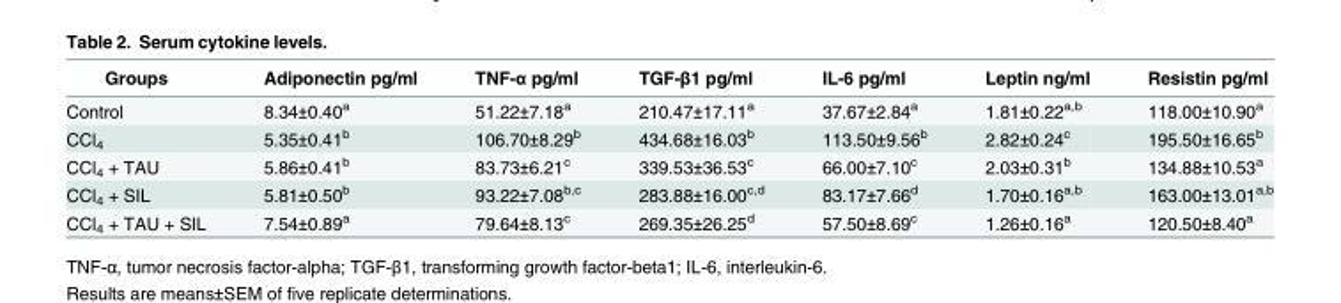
<table><thead><tr><td>Groups</td><td>Adiponectin pg/ml</td><td>TNF-α pg/ml</td><td>TGF-β1 pg/ml</td><td>IL-6 pg/ml</td><td>Leptin ng/ml</td><td>Resistin pg/ml</td></tr></thead><tbody><tr><td>Control</td><td>8.34±0.40<sup>a</sup></td><td>51.22±7.18<sup>a</sup></td><td>210.47±17.11<sup>a</sup></td><td>37.67±2.84<sup>a</sup></td><td>1.81±0.22<sup>a,b</sup></td><td>118.00±10.90<sup>a</sup></td></tr><tr><td>CCl<sub>4</sub></td><td>5.35±0.41<sup>b</sup></td><td>106.70±8.29<sup>b</sup></td><td>434.68±16.03<sup>b</sup></td><td>113.50±9.56<sup>b</sup></td><td>2.82±0.24<sup>c</sup></td><td>195.50±16.65<sup>b</sup></td></tr><tr><td>CCl<sub>4</sub> + TAU</td><td>5.86±0.41<sup>b</sup></td><td>83.73±6.21<sup>c</sup></td><td>339.53±36.53<sup>c</sup></td><td>66.00±7.10<sup>c</sup></td><td>2.03±0.31<sup>b</sup></td><td>134.88±10.53<sup>a</sup></td></tr><tr><td>CCl<sub>4</sub> + SIL</td><td>5.81±0.50<sup>b</sup></td><td>93.22±7.08<sup>b,c</sup></td><td>283.88±16.00<sup>c,d</sup></td><td>83.17±7.66<sup>d</sup></td><td>1.70±0.16<sup>a,b</sup></td><td>163.00±13.01<sup>a,b</sup></td></tr><tr><td>CCl<sub>4</sub> + TAU + SIL</td><td>7.54±0.89<sup>a</sup></td><td>79.64±8.13<sup>c</sup></td><td>269.35±26.25<sup>d</sup></td><td>57.50±8.69<sup>c</sup></td><td>1.26±0.16<sup>a</sup></td><td>120.50±8.40<sup>a</sup></td></tr></tbody></table>